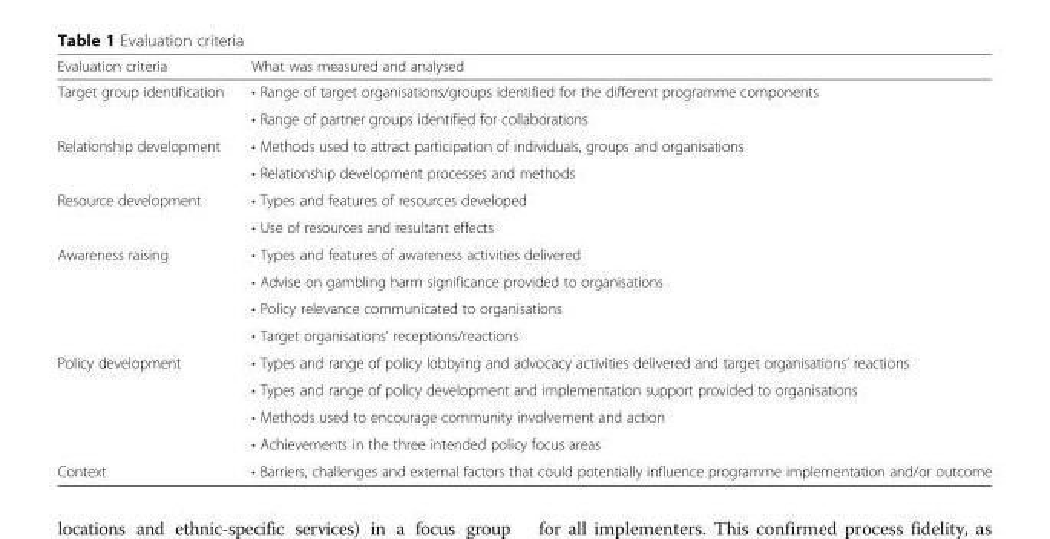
<table><thead><tr><td>Evaluation criteria</td><td>What was measured and analysed</td></tr></thead><tbody><tr><td rowspan="2">Target group identification</td><td>• Range of target organisations/groups identified for the different programme components</td></tr><tr><td>• Range of partner groups identified for collaborations</td></tr><tr><td rowspan="2">Relationship development</td><td>• Methods used to attract participation of individuals, groups and organisations</td></tr><tr><td>• Relationship development processes and methods</td></tr><tr><td rowspan="2">Resource development</td><td>• Types and features of resources developed</td></tr><tr><td>• Use of resources and resultant effects</td></tr><tr><td rowspan="4">Awareness raising</td><td>• Types and features of awareness activities delivered</td></tr><tr><td>• Advise on gambling harm significance provided to organisations</td></tr><tr><td>• Policy relevance communicated to organisations</td></tr><tr><td>• Target organisations’ receptions/reactions</td></tr><tr><td rowspan="4">Policy development</td><td>• Types and range of policy lobbying and advocacy activities delivered and target organisations’ reactions</td></tr><tr><td>• Types and range of policy development and implementation support provided to organisations</td></tr><tr><td>• Methods used to encourage community involvement and action</td></tr><tr><td>• Achievements in the three intended policy focus areas</td></tr><tr><td>Context</td><td>• Barriers, challenges and external factors that could potentially influence programme implementation and/or outcome</td></tr></tbody></table>